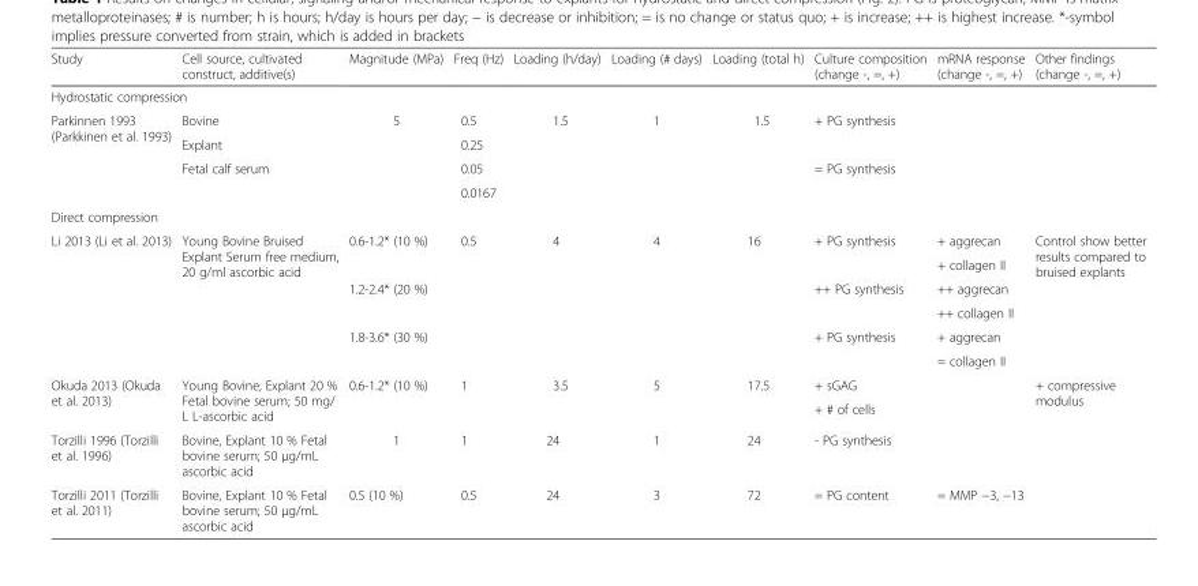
<table><thead><tr><td>Study</td><td>Cell source, cultivated construct, additive(s)</td><td>Magnitude (MPa)</td><td>Freq (Hz)</td><td>Loading (h/day)</td><td>Loading (# days)</td><td>Loading (total h)</td><td>Culture composition (change -, =, +)</td><td>mRNA response (change -, =, +)</td><td>Other findings (change -, =, +)</td></tr></thead><tbody><tr><td colspan="10">Hydrostatic compression</td></tr><tr><td rowspan="4">Parkinnen 1993 (Parkkinen et al. 1993)</td><td>Bovine</td><td rowspan="4">5</td><td>0.5</td><td rowspan="4">1.5</td><td rowspan="4">1</td><td rowspan="4">1.5</td><td rowspan="2">+ PG synthesis</td><td rowspan="2"></td><td rowspan="2"></td></tr><tr><td>Explant</td><td>0.25</td></tr><tr><td>Fetal calf serum</td><td>0.05</td><td rowspan="2">= PG synthesis</td><td rowspan="2"></td><td rowspan="2"></td></tr><tr><td></td><td>0.0167</td></tr><tr><td colspan="10">Direct compression</td></tr><tr><td rowspan="6">Li 2013 (Li et al. 2013)</td><td rowspan="6">Young Bovine Bruised Explant Serum free medium, 20 g/ml ascorbic acid</td><td rowspan="2">0.6-1.2* (10 %)</td><td rowspan="6">0.5</td><td rowspan="6">4</td><td rowspan="6">4</td><td rowspan="6">16</td><td rowspan="2">+ PG synthesis</td><td>+ aggrecan</td><td rowspan="6">Control show better results compared to bruised explants</td></tr><tr><td>+ collagen II</td></tr><tr><td rowspan="2">1.2-2.4* (20 %)</td><td rowspan="2">++ PG synthesis</td><td>++ aggrecan</td></tr><tr><td>++ collagen II</td></tr><tr><td rowspan="2">1.8-3.6* (30 %)</td><td rowspan="2">+ PG synthesis</td><td>+ aggrecan</td></tr><tr><td>= collagen II</td></tr><tr><td rowspan="2">Okuda 2013 (Okuda et al. 2013)</td><td rowspan="2">Young Bovine, Explant 20 % Fetal bovine serum; 50 mg/ L L-ascorbic acid</td><td rowspan="2">0.6-1.2* (10 %)</td><td rowspan="2">1</td><td rowspan="2">3.5</td><td rowspan="2">5</td><td rowspan="2">17.5</td><td>+ sGAG</td><td rowspan="2"></td><td rowspan="2">+ compressive modulus</td></tr><tr><td>+ # of cells</td></tr><tr><td>Torzilli 1996 (Torzilli et al. 1996)</td><td>Bovine, Explant 10 % Fetal bovine serum; 50 μg/mL ascorbic acid</td><td>1</td><td>1</td><td>24</td><td>1</td><td>24</td><td>- PG synthesis</td><td></td><td></td></tr><tr><td>Torzilli 2011 (Torzilli et al. 2011)</td><td>Bovine, Explant 10 % Fetal bovine serum; 50 μg/mL ascorbic acid</td><td>0.5 (10 %)</td><td>0.5</td><td>24</td><td>3</td><td>72</td><td>= PG content</td><td>= MMP −3, −13</td><td></td></tr></tbody></table>